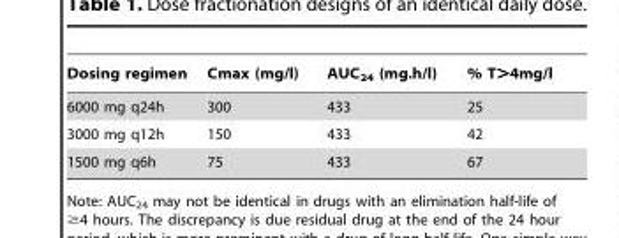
<table><thead><tr><td>Dosing regimen</td><td>Cmax (mg/l)</td><td>AUC<sub>24</sub> (mg.h/l)</td><td>% T&gt;4mg/l</td></tr></thead><tbody><tr><td>6000 mg q24h</td><td>300</td><td>433</td><td>25</td></tr><tr><td>3000 mg q12h</td><td>150</td><td>433</td><td>42</td></tr><tr><td>1500 mg q6h</td><td>75</td><td>433</td><td>67</td></tr></tbody></table>